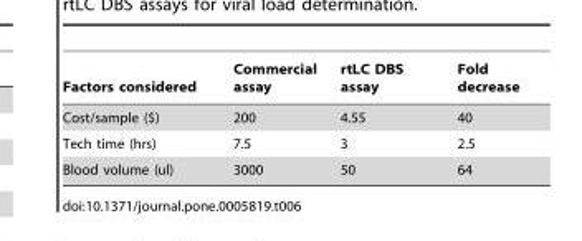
<table><thead><tr><td>Factors considered</td><td>Commercial assay</td><td>rtLC DBS assay</td><td>Fold decrease</td></tr></thead><tbody><tr><td>Cost/sample ($)</td><td>200</td><td>4.55</td><td>40</td></tr><tr><td>Tech time (hrs)</td><td>7.5</td><td>3</td><td>2.5</td></tr><tr><td>Blood volume (ul)</td><td>3000</td><td>50</td><td>64</td></tr></tbody></table>